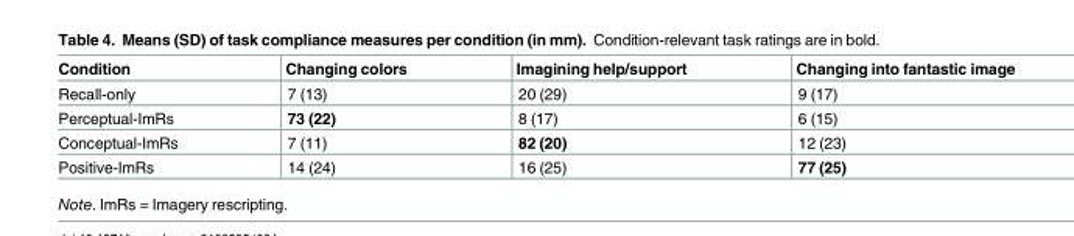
<table><thead><tr><td>Condition</td><td>Changing colors</td><td>Imagining help/support</td><td>Changing into fantastic image</td></tr></thead><tbody><tr><td>Recall-only</td><td>7 (13)</td><td>20 (29)</td><td>9 (17)</td></tr><tr><td>Perceptual-ImRs</td><td>73 (22)</td><td>8 (17)</td><td>6 (15)</td></tr><tr><td>Conceptual-ImRs</td><td>7 (11)</td><td>82 (20)</td><td>12 (23)</td></tr><tr><td>Positive-ImRs</td><td>14 (24)</td><td>16 (25)</td><td>77 (25)</td></tr></tbody></table>